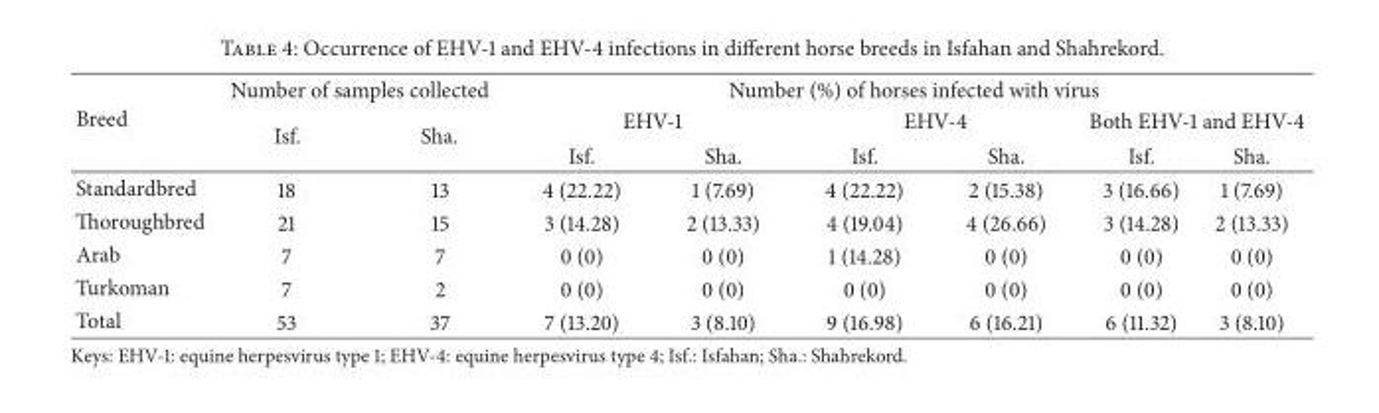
<table><thead><tr><td rowspan="3">Breed</td><td colspan="2">Number of samples collected</td><td colspan="6">Number (%) of horses infected with virus</td></tr><tr><td rowspan="2">Isf.</td><td rowspan="2">Sha.</td><td colspan="2">EHV-1</td><td colspan="2">EHV-4</td><td colspan="2">Both EHV-1 and EHV-4</td></tr><tr><td>Isf.</td><td>Sha.</td><td>Isf.</td><td>Sha.</td><td>Isf.</td><td>Sha.</td></tr></thead><tbody><tr><td>Standardbred</td><td>18</td><td>13</td><td>4 (22.22)</td><td>1 (7.69)</td><td>4 (22.22)</td><td>2 (15.38)</td><td>3 (16.66)</td><td>1 (7.69)</td></tr><tr><td>Thoroughbred</td><td>21</td><td>15</td><td>3 (14.28)</td><td>2 (13.33)</td><td>4 (19.04)</td><td>4 (26.66)</td><td>3 (14.28)</td><td>2 (13.33)</td></tr><tr><td>Arab</td><td>7</td><td>7</td><td>0 (0)</td><td>0 (0)</td><td>1 (14.28)</td><td>0 (0)</td><td>0 (0)</td><td>0 (0)</td></tr><tr><td>Turkoman</td><td>7</td><td>2</td><td>0 (0)</td><td>0 (0)</td><td>0 (0)</td><td>0 (0)</td><td>0 (0)</td><td>0 (0)</td></tr><tr><td>Total</td><td>53</td><td>37</td><td>7 (13.20)</td><td>3 (8.10)</td><td>9 (16.98)</td><td>6 (16.21)</td><td>6 (11.32)</td><td>3 (8.10)</td></tr></tbody></table>